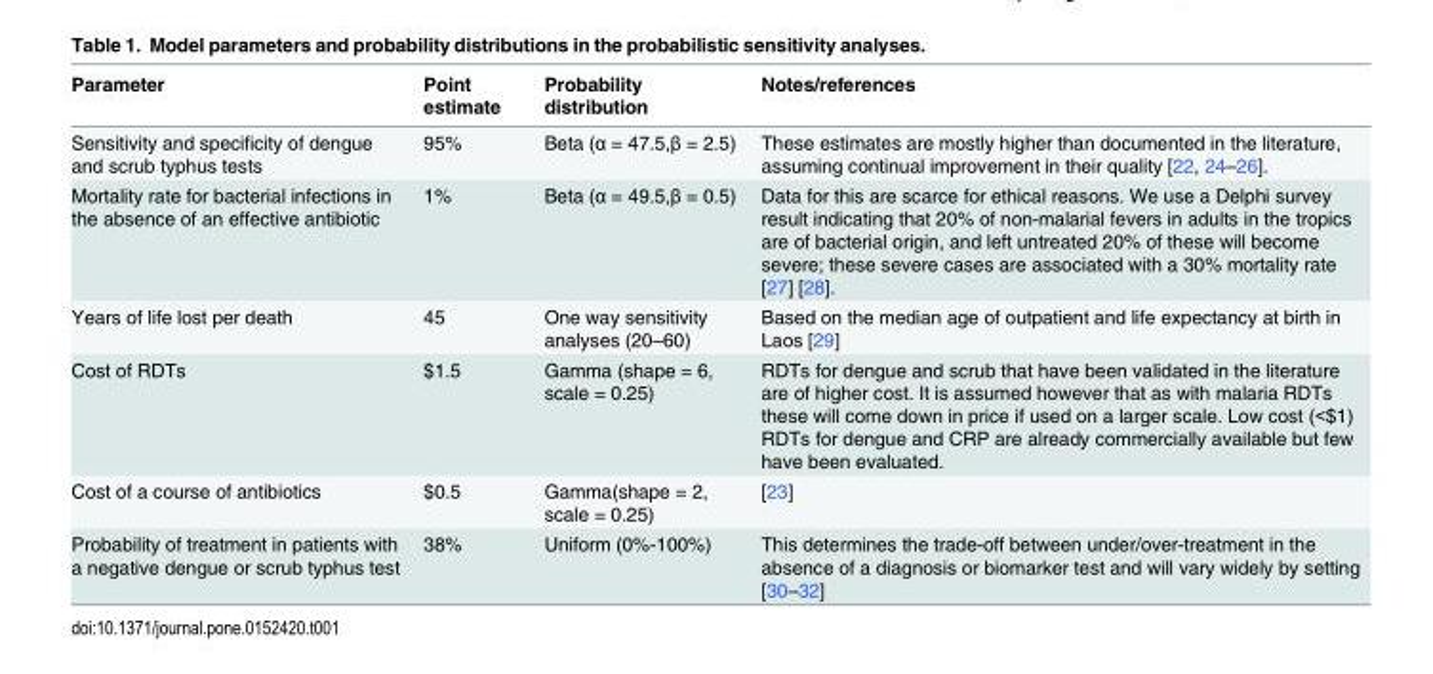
<table><thead><tr><td>Parameter</td><td>Point estimate</td><td>Probability distribution</td><td>Notes/references</td></tr></thead><tbody><tr><td>Sensitivity and specificity of dengue and scrub typhus tests</td><td>95%</td><td>Beta (α = 47.5,β = 2.5)</td><td>These estimates are mostly higher than documented in the literature, assuming continual improvement in their quality [22, 24–26].</td></tr><tr><td>Mortality rate for bacterial infections in the absence of an effective antibiotic</td><td>1%</td><td>Beta (α = 49.5,β = 0.5)</td><td>Data for this are scarce for ethical reasons. We use a Delphi survey result indicating that 20% of non-malarial fevers in adults in the tropics are of bacterial origin, and left untreated 20% of these will become severe; these severe cases are associated with a 30% mortality rate [27] [28].</td></tr><tr><td>Years of life lost per death</td><td>45</td><td>One way sensitivity analyses (20–60)</td><td>Based on the median age of outpatient and life expectancy at birth in Laos [29]</td></tr><tr><td>Cost of RDTs</td><td>$1.5</td><td>Gamma (shape = 6, scale = 0.25)</td><td>RDTs for dengue and scrub that have been validated in the literature are of higher cost. It is assumed however that as with malaria RDTs these will come down in price if used on a larger scale. Low cost (&lt;$1) RDTs for dengue and CRP are already commercially available but few have been evaluated.</td></tr><tr><td>Cost of a course of antibiotics</td><td>$0.5</td><td>Gamma(shape = 2, scale = 0.25)</td><td>[23]</td></tr><tr><td>Probability of treatment in patients with a negative dengue or scrub typhus test</td><td>38%</td><td>Uniform (0%-100%)</td><td>This determines the trade-off between under/over-treatment in the absence of a diagnosis or biomarker test and will vary widely by setting [30–32]</td></tr></tbody></table>